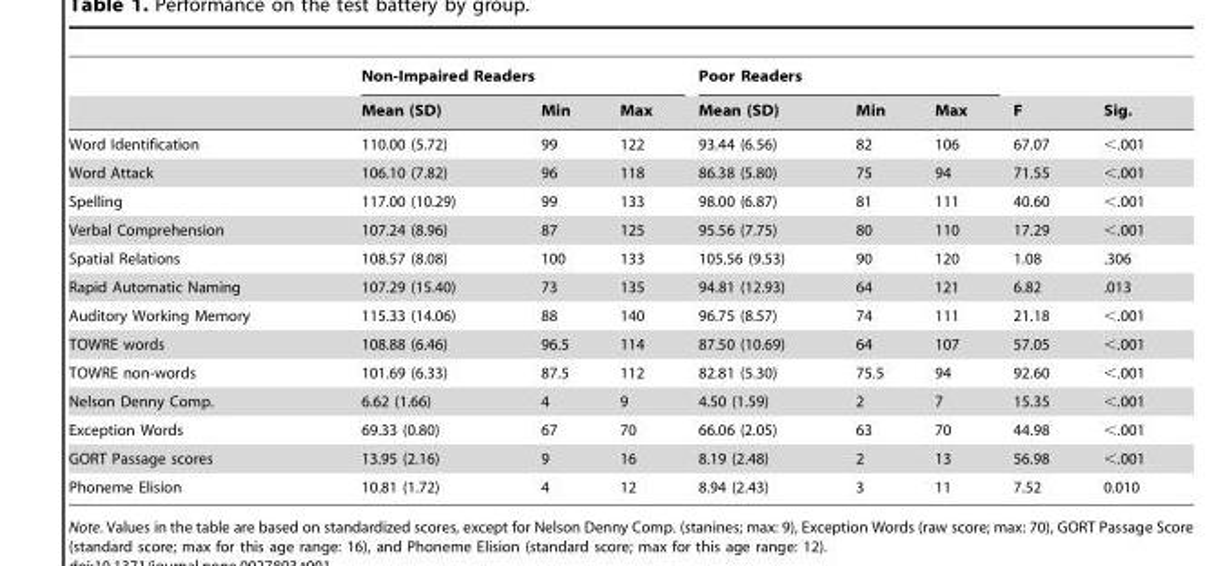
<table><thead><tr><td rowspan="2"></td><td colspan="3">Non-Impaired Readers</td><td colspan="3">Poor Readers</td><td rowspan="2">F</td><td rowspan="2">Sig.</td></tr><tr><td>Mean (SD)</td><td>Min</td><td>Max</td><td>Mean (SD)</td><td>Min</td><td>Max</td></tr></thead><tbody><tr><td>Word Identification</td><td>110.00 (5.72)</td><td>99</td><td>122</td><td>93.44 (6.56)</td><td>82</td><td>106</td><td>67.07</td><td>&lt;.001</td></tr><tr><td>Word Attack</td><td>106.10 (7.82)</td><td>96</td><td>118</td><td>86.38 (5.80)</td><td>75</td><td>94</td><td>71.55</td><td>&lt;.001</td></tr><tr><td>Spelling</td><td>117.00 (10.29)</td><td>99</td><td>133</td><td>98.00 (6.87)</td><td>81</td><td>111</td><td>40.60</td><td>&lt;.001</td></tr><tr><td>Verbal Comprehension</td><td>107.24 (8.96)</td><td>87</td><td>125</td><td>95.56 (7.75)</td><td>80</td><td>110</td><td>17.29</td><td>&lt;.001</td></tr><tr><td>Spatial Relations</td><td>108.57 (8.08)</td><td>100</td><td>133</td><td>105.56 (9.53)</td><td>90</td><td>120</td><td>1.08</td><td>.306</td></tr><tr><td>Rapid Automatic Naming</td><td>107.29 (15.40)</td><td>73</td><td>135</td><td>94.81 (12.93)</td><td>64</td><td>121</td><td>6.82</td><td>.013</td></tr><tr><td>Auditory Working Memory</td><td>115.33 (14.06)</td><td>88</td><td>140</td><td>96.75 (8.57)</td><td>74</td><td>111</td><td>21.18</td><td>&lt;.001</td></tr><tr><td>TOWRE words</td><td>108.88 (6.46)</td><td>96.5</td><td>114</td><td>87.50 (10.69)</td><td>64</td><td>107</td><td>57.05</td><td>&lt;.001</td></tr><tr><td>TOWRE non-words</td><td>101.69 (6.33)</td><td>87.5</td><td>112</td><td>82.81 (5.30)</td><td>75.5</td><td>94</td><td>92.60</td><td>&lt;.001</td></tr><tr><td>Nelson Denny Comp.</td><td>6.62 (1.66)</td><td>4</td><td>9</td><td>4.50 (1.59)</td><td>2</td><td>7</td><td>15.35</td><td>&lt;.001</td></tr><tr><td>Exception Words</td><td>69.33 (0.80)</td><td>67</td><td>70</td><td>66.06 (2.05)</td><td>63</td><td>70</td><td>44.98</td><td>&lt;.001</td></tr><tr><td>GORT Passage scores</td><td>13.95 (2.16)</td><td>9</td><td>16</td><td>8.19 (2.48)</td><td>2</td><td>13</td><td>56.98</td><td>&lt;.001</td></tr><tr><td>Phoneme Elision</td><td>10.81 (1.72)</td><td>4</td><td>12</td><td>8.94 (2.43)</td><td>3</td><td>11</td><td>7.52</td><td>0.010</td></tr></tbody></table>